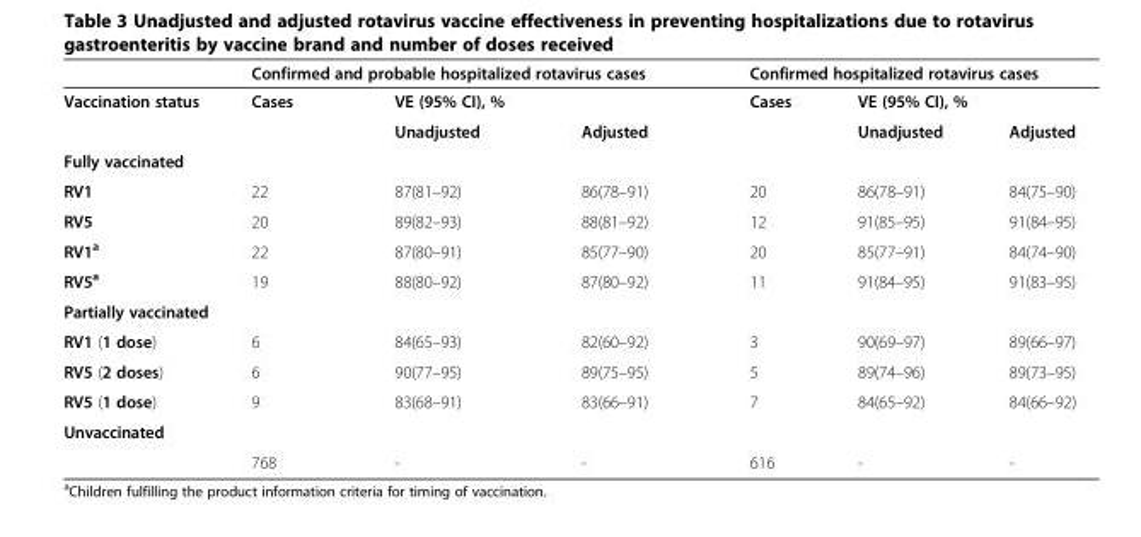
<table><thead><tr><td rowspan="3">Vaccination status</td><td colspan="3">Confirmed and probable hospitalized rotavirus cases</td><td colspan="3">Confirmed hospitalized rotavirus cases</td></tr><tr><td rowspan="2">Cases</td><td colspan="2">VE (95% CI), %</td><td rowspan="2">Cases</td><td colspan="2">VE (95% CI), %</td></tr><tr><td>Unadjusted</td><td>Adjusted</td><td>Unadjusted</td><td>Adjusted</td></tr></thead><tbody><tr><td colspan="7">Fully vaccinated</td></tr><tr><td>RV1</td><td>22</td><td>87(81–92)</td><td>86(78–91)</td><td>20</td><td>86(78–91)</td><td>84(75–90)</td></tr><tr><td>RV5</td><td>20</td><td>89(82–93)</td><td>88(81–92)</td><td>12</td><td>91(85–95)</td><td>91(84–95)</td></tr><tr><td>RV1<sup>a</sup></td><td>22</td><td>87(80–91)</td><td>85(77–90)</td><td>20</td><td>85(77–91)</td><td>84(74–90)</td></tr><tr><td>RV5<sup>a</sup></td><td>19</td><td>88(80–92)</td><td>87(80–92)</td><td>11</td><td>91(84–95)</td><td>91(83–95)</td></tr><tr><td colspan="7">Partially vaccinated</td></tr><tr><td>RV1 (1 dose)</td><td>6</td><td>84(65–93)</td><td>82(60–92)</td><td>3</td><td>90(69–97)</td><td>89(66–97)</td></tr><tr><td>RV5 (2 doses)</td><td>6</td><td>90(77–95)</td><td>89(75–95)</td><td>5</td><td>89(74–96)</td><td>89(73–95)</td></tr><tr><td>RV5 (1 dose)</td><td>9</td><td>83(68–91)</td><td>83(66–91)</td><td>7</td><td>84(65–92)</td><td>84(66–92)</td></tr><tr><td colspan="7">Unvaccinated</td></tr><tr><td></td><td>768</td><td>-</td><td>-</td><td>616</td><td>-</td><td>-</td></tr></tbody></table>